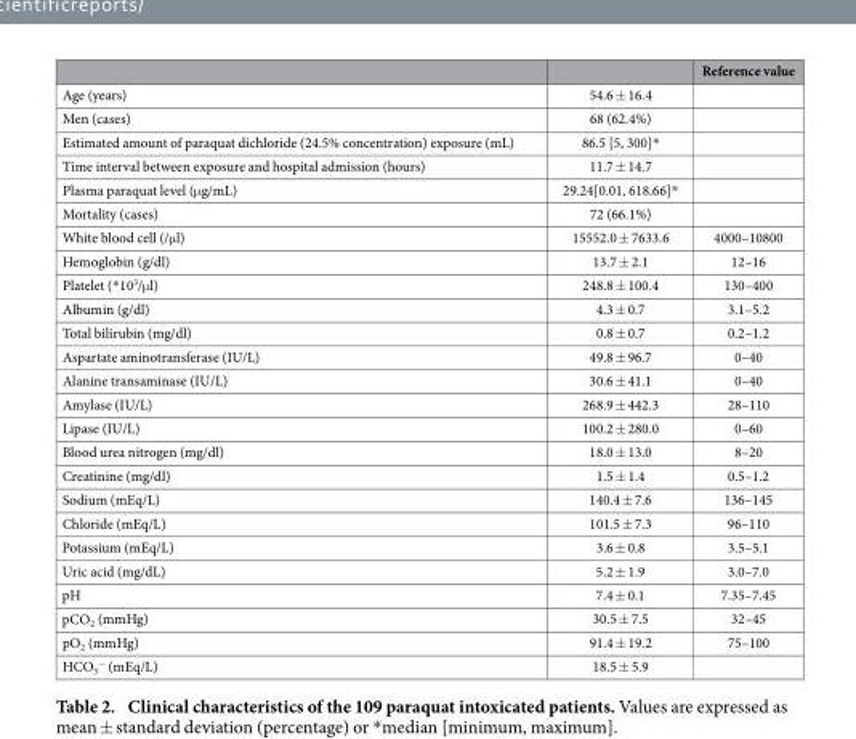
<table><thead><tr><td></td><td></td><td>Reference value</td></tr></thead><tbody><tr><td>Age (years)</td><td>54.6 ± 16.4</td><td></td></tr><tr><td>Men (cases)</td><td>68 (62.4%)</td><td></td></tr><tr><td>Estimated amount of paraquat dichloride (24.5% concentration) exposure (mL)</td><td>86.5 [5, 300]*</td><td></td></tr><tr><td>Time interval between exposure and hospital admission (hours)</td><td>11.7 ± 14.7</td><td></td></tr><tr><td>Plasma paraquat level (μ g/mL)</td><td>29.24[0.01, 618.66]*</td><td></td></tr><tr><td>Mortality (cases)</td><td>72 (66.1%)</td><td></td></tr><tr><td>White blood cell (/μ l)</td><td>15552.0 ± 7633.6</td><td>4000–10800</td></tr><tr><td>Hemoglobin (g/dl)</td><td>13.7 ± 2.1</td><td>12–16</td></tr><tr><td>Platelet (* 10<sup>3</sup>/μ l)</td><td>248.8 ± 100.4</td><td>130–400</td></tr><tr><td>Albumin (g/dl)</td><td>4.3 ± 0.7</td><td>3.1–5.2</td></tr><tr><td>Total bilirubin (mg/dl)</td><td>0.8 ± 0.7</td><td>0.2–1.2</td></tr><tr><td>Aspartate aminotransferase (IU/L)</td><td>49.8 ± 96.7</td><td>0–40</td></tr><tr><td>Alanine transaminase (IU/L)</td><td>30.6 ± 41.1</td><td>0–40</td></tr><tr><td>Amylase (IU/L)</td><td>268.9 ± 442.3</td><td>28–110</td></tr><tr><td>Lipase (IU/L)</td><td>100.2 ± 280.0</td><td>0–60</td></tr><tr><td>Blood urea nitrogen (mg/dl)</td><td>18.0 ± 13.0</td><td>8–20</td></tr><tr><td>Creatinine (mg/dl)</td><td>1.5 ± 1.4</td><td>0.5–1.2</td></tr><tr><td>Sodium (mEq/L)</td><td>140.4 ± 7.6</td><td>136–145</td></tr><tr><td>Chloride (mEq/L)</td><td>101.5 ± 7.3</td><td>96–110</td></tr><tr><td>Potassium (mEq/L)</td><td>3.6 ± 0.8</td><td>3.5–5.1</td></tr><tr><td>Uric acid (mg/dL)</td><td>5.2 ± 1.9</td><td>3.0–7.0</td></tr><tr><td>pH</td><td>7.4 ± 0.1</td><td>7.35–7.45</td></tr><tr><td>pCO<sub>2</sub> (mmHg)</td><td>30.5 ± 7.5</td><td>32–45</td></tr><tr><td>pO<sub>2</sub> (mmHg)</td><td>91.4 ± 19.2</td><td>75–100</td></tr><tr><td>HCO<sub>3</sub> <sup>−</sup> (mEq/L)</td><td>18.5 ± 5.9</td><td></td></tr></tbody></table>